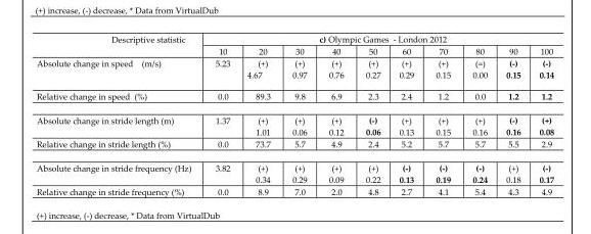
<table><thead><tr><td rowspan="2">Descriptive statistic</td><td colspan="10">c) Olympic Games - London 2012</td></tr><tr><td>10</td><td>20</td><td>30</td><td>40</td><td>50</td><td>60</td><td>70</td><td>80</td><td>90</td><td>100</td></tr></thead><tbody><tr><td>Absolute change in speed (m/s)</td><td>5.23</td><td>(+) 4.67</td><td>(+) 0.97</td><td>(+) 0.76</td><td>(+) 0.27</td><td>(+) 0.29</td><td>(+) 0.15</td><td>(=) 0.00</td><td>(-) 0.15</td><td>(-) 0.14</td></tr><tr><td>Relative change in speed (%)</td><td>0.0</td><td>89.3</td><td>9.8</td><td>6.9</td><td>2.3</td><td>2.4</td><td>1.2</td><td>0.0</td><td>1.2</td><td>1.2</td></tr><tr><td>Absolute change in stride length (m)</td><td>1.37</td><td>(+) 1.01</td><td>(+) 0.06</td><td>(+) 0.12</td><td>(-) 0.06</td><td>(+) 0.13</td><td>(+) 0.15</td><td>(+) 0.16</td><td>(-) 0.16</td><td>(+) 0.08</td></tr><tr><td>Relative change in stride length (%)</td><td>0.0</td><td>73.7</td><td>5.7</td><td>4.9</td><td>2.4</td><td>5.2</td><td>5.7</td><td>5.7</td><td>5.5</td><td>2.9</td></tr><tr><td>Absolute change in stride frequency (Hz)</td><td>3.82</td><td>(+) 0.34</td><td>(+) 0.29</td><td>(+) 0.09</td><td>(+) 0.22</td><td>(-) 0.13</td><td>(-) 0.19</td><td>(-) 0.24</td><td>(+) 0.18</td><td>(-) 0.17</td></tr><tr><td>Relative change in stride frequency (%)</td><td>0.0</td><td>8.9</td><td>7.0</td><td>2.0</td><td>4.8</td><td>2.7</td><td>4.1</td><td>5.4</td><td>4.3</td><td>4.9</td></tr></tbody></table>